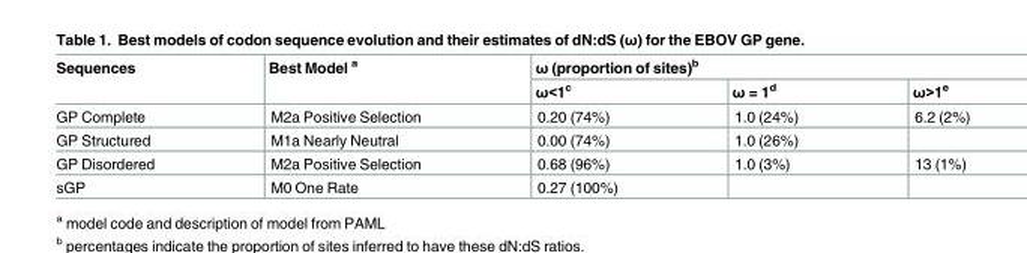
<table><thead><tr><td rowspan="2">Sequences</td><td rowspan="2">Best Model <sup>a</sup></td><td colspan="3">ω (proportion of sites)<sup>b</sup></td></tr><tr><td>ω&lt;1<sup>c</sup></td><td>ω = 1<sup>d</sup></td><td>ω&gt;1<sup>e</sup></td></tr></thead><tbody><tr><td>GP Complete</td><td>M2a Positive Selection</td><td>0.20 (74%)</td><td>1.0 (24%)</td><td>6.2 (2%)</td></tr><tr><td>GP Structured</td><td>M1a Nearly Neutral</td><td>0.00 (74%)</td><td>1.0 (26%)</td><td></td></tr><tr><td>GP Disordered</td><td>M2a Positive Selection</td><td>0.68 (96%)</td><td>1.0 (3%)</td><td>13 (1%)</td></tr><tr><td>sGP</td><td>M0 One Rate</td><td>0.27 (100%)</td><td></td><td></td></tr></tbody></table>